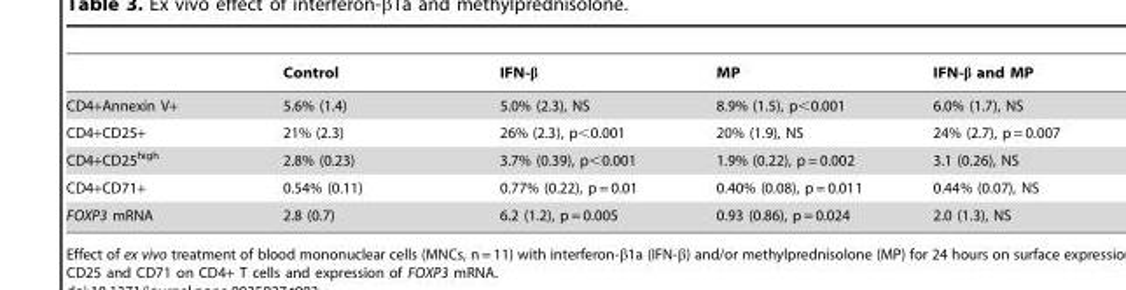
<table><thead><tr><td></td><td>Control</td><td>IFN-β</td><td>MP</td><td>IFN-β and MP</td></tr></thead><tbody><tr><td>CD4+Annexin V+</td><td>5.6% (1.4)</td><td>5.0% (2.3), NS</td><td>8.9% (1.5), p&lt;0.001</td><td>6.0% (1.7), NS</td></tr><tr><td>CD4+CD25+</td><td>21% (2.3)</td><td>26% (2.3), p&lt;0.001</td><td>20% (1.9), NS</td><td>24% (2.7), p = 0.007</td></tr><tr><td>CD4+CD25<sup>high</sup></td><td>2.8% (0.23)</td><td>3.7% (0.39), p&lt;0.001</td><td>1.9% (0.22), p = 0.002</td><td>3.1 (0.26), NS</td></tr><tr><td>CD4+CD71+</td><td>0.54% (0.11)</td><td>0.77% (0.22), p = 0.01</td><td>0.40% (0.08), p = 0.011</td><td>0.44% (0.07), NS</td></tr><tr><td>FOXP3 mRNA</td><td>2.8 (0.7)</td><td>6.2 (1.2), p = 0.005</td><td>0.93 (0.86), p = 0.024</td><td>2.0 (1.3), NS</td></tr></tbody></table>